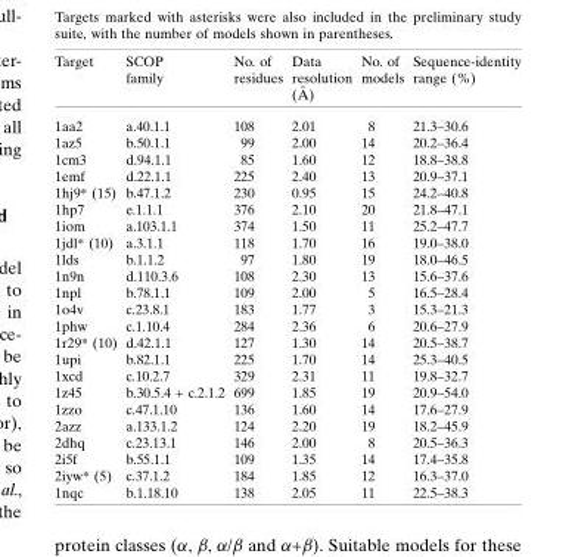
<table><thead><tr><td>Target</td><td>SCOP family</td><td>No. of residues</td><td>Data resolution (A˚ )</td><td>No. of models</td><td>Sequence-identity range (%)</td></tr></thead><tbody><tr><td>1aa2</td><td>a.40.1.1</td><td>108</td><td>2.01</td><td>8</td><td>21.3–30.6</td></tr><tr><td>1az5</td><td>b.50.1.1</td><td>99</td><td>2.00</td><td>14</td><td>20.2–36.4</td></tr><tr><td>1cm3</td><td>d.94.1.1</td><td>85</td><td>1.60</td><td>12</td><td>18.8–38.8</td></tr><tr><td>1emf</td><td>d.22.1.1</td><td>225</td><td>2.40</td><td>13</td><td>20.9–37.1</td></tr><tr><td>1hj9* (15)</td><td>b.47.1.2</td><td>230</td><td>0.95</td><td>15</td><td>24.2–40.8</td></tr><tr><td>1hp7</td><td>e.1.1.1</td><td>376</td><td>2.10</td><td>20</td><td>21.8–47.1</td></tr><tr><td>1iom</td><td>a.103.1.1</td><td>374</td><td>1.50</td><td>11</td><td>25.2–47.7</td></tr><tr><td>1jdl* (10)</td><td>a.3.1.1</td><td>118</td><td>1.70</td><td>16</td><td>19.0–38.0</td></tr><tr><td>1lds</td><td>b.1.1.2</td><td>97</td><td>1.80</td><td>19</td><td>18.0–46.5</td></tr><tr><td>1n9n</td><td>d.110.3.6</td><td>108</td><td>2.30</td><td>13</td><td>15.6–37.6</td></tr><tr><td>1npl</td><td>b.78.1.1</td><td>109</td><td>2.00</td><td>5</td><td>16.5–28.4</td></tr><tr><td>1o4v</td><td>c.23.8.1</td><td>183</td><td>1.77</td><td>3</td><td>15.3–21.3</td></tr><tr><td>1phw</td><td>c.1.10.4</td><td>284</td><td>2.36</td><td>6</td><td>20.6–27.9</td></tr><tr><td>1r29* (10)</td><td>d.42.1.1</td><td>127</td><td>1.30</td><td>14</td><td>20.5–38.7</td></tr><tr><td>1upi</td><td>b.82.1.1</td><td>225</td><td>1.70</td><td>14</td><td>25.3–40.5</td></tr><tr><td>1xcd</td><td>c.10.2.7</td><td>329</td><td>2.31</td><td>11</td><td>19.8–32.7</td></tr><tr><td>1z45</td><td>b.30.5.4 + c.2.1.2</td><td>699</td><td>1.85</td><td>19</td><td>20.9–54.0</td></tr><tr><td>1zzo</td><td>c.47.1.10</td><td>136</td><td>1.60</td><td>14</td><td>17.6–27.9</td></tr><tr><td>2azz</td><td>a.133.1.2</td><td>124</td><td>2.20</td><td>19</td><td>18.2–45.9</td></tr><tr><td>2dhq</td><td>c.23.13.1</td><td>146</td><td>2.00</td><td>8</td><td>20.5–36.3</td></tr><tr><td>2i5f</td><td>b.55.1.1</td><td>109</td><td>1.35</td><td>14</td><td>17.4–35.8</td></tr><tr><td>2iyw* (5)</td><td>c.37.1.2</td><td>184</td><td>1.85</td><td>12</td><td>16.3–37.0</td></tr><tr><td>1nqc</td><td>b.1.18.10</td><td>138</td><td>2.05</td><td>11</td><td>22.5–38.3</td></tr></tbody></table>